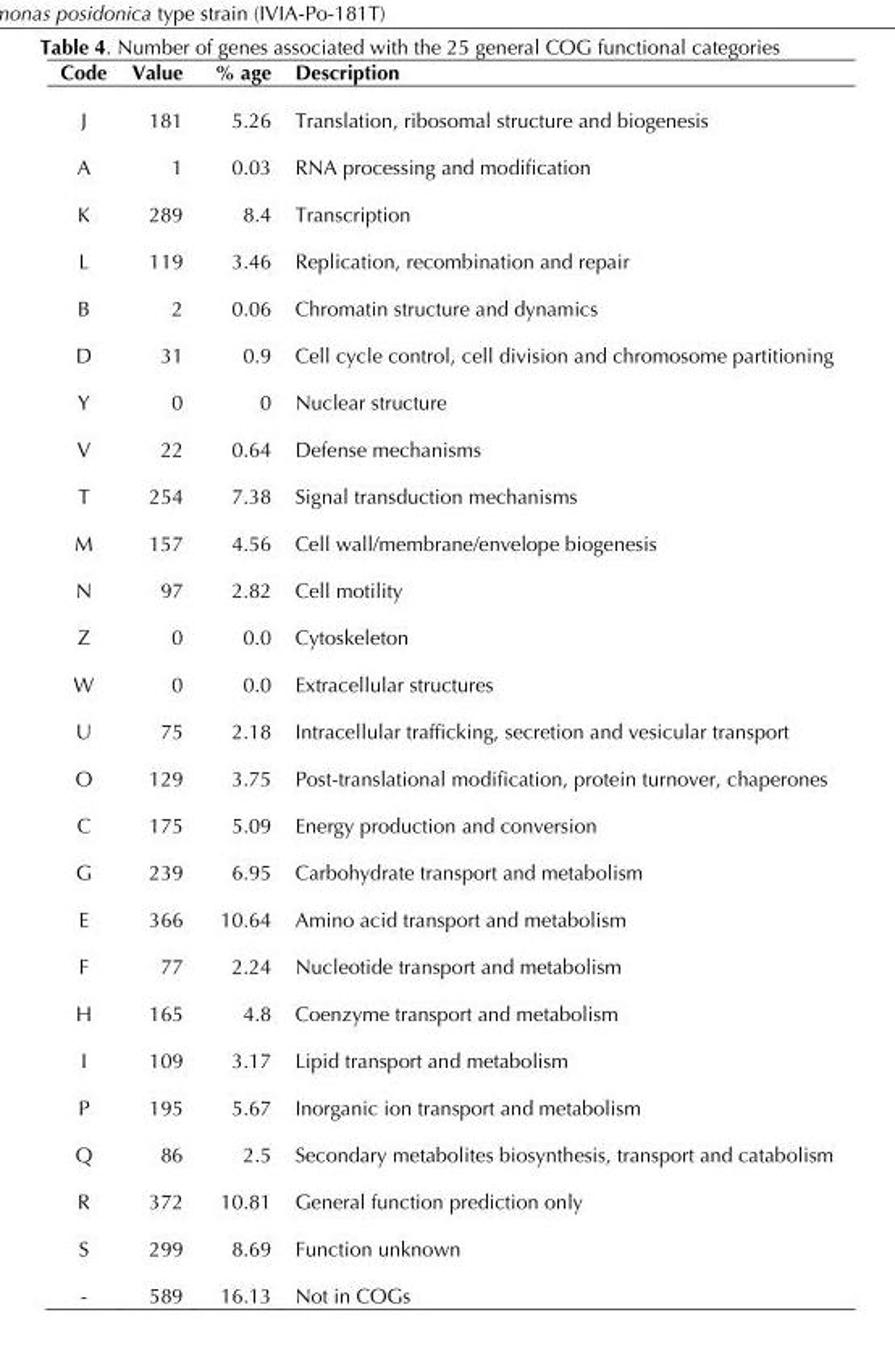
<table><thead><tr><td>Code</td><td>Value</td><td>% age</td><td>Description</td></tr></thead><tbody><tr><td>J</td><td>181</td><td>5.26</td><td>Translation, ribosomal structure and biogenesis</td></tr><tr><td>A</td><td>1</td><td>0.03</td><td>RNA processing and modification</td></tr><tr><td>K</td><td>289</td><td>8.4</td><td>Transcription</td></tr><tr><td>L</td><td>119</td><td>3.46</td><td>Replication, recombination and repair</td></tr><tr><td>B</td><td>2</td><td>0.06</td><td>Chromatin structure and dynamics</td></tr><tr><td>D</td><td>31</td><td>0.9</td><td>Cell cycle control, cell division and chromosome partitioning</td></tr><tr><td>Y</td><td>0</td><td>0</td><td>Nuclear structure</td></tr><tr><td>V</td><td>22</td><td>0.64</td><td>Defense mechanisms</td></tr><tr><td>T</td><td>254</td><td>7.38</td><td>Signal transduction mechanisms</td></tr><tr><td>M</td><td>157</td><td>4.56</td><td>Cell wall/membrane/envelope biogenesis</td></tr><tr><td>N</td><td>97</td><td>2.82</td><td>Cell motility</td></tr><tr><td>Z</td><td>0</td><td>0.0</td><td>Cytoskeleton</td></tr><tr><td>W</td><td>0</td><td>0.0</td><td>Extracellular structures</td></tr><tr><td>U</td><td>75</td><td>2.18</td><td>Intracellular trafficking, secretion and vesicular transport</td></tr><tr><td>O</td><td>129</td><td>3.75</td><td>Post-translational modification, protein turnover, chaperones</td></tr><tr><td>C</td><td>175</td><td>5.09</td><td>Energy production and conversion</td></tr><tr><td>G</td><td>239</td><td>6.95</td><td>Carbohydrate transport and metabolism</td></tr><tr><td>E</td><td>366</td><td>10.64</td><td>Amino acid transport and metabolism</td></tr><tr><td>F</td><td>77</td><td>2.24</td><td>Nucleotide transport and metabolism</td></tr><tr><td>H</td><td>165</td><td>4.8</td><td>Coenzyme transport and metabolism</td></tr><tr><td>I</td><td>109</td><td>3.17</td><td>Lipid transport and metabolism</td></tr><tr><td>P</td><td>195</td><td>5.67</td><td>Inorganic ion transport and metabolism</td></tr><tr><td>Q</td><td>86</td><td>2.5</td><td>Secondary metabolites biosynthesis, transport and catabolism</td></tr><tr><td>R</td><td>372</td><td>10.81</td><td>General function prediction only</td></tr><tr><td>S</td><td>299</td><td>8.69</td><td>Function unknown</td></tr><tr><td>-</td><td>589</td><td>16.13</td><td>Not in COGs</td></tr></tbody></table>